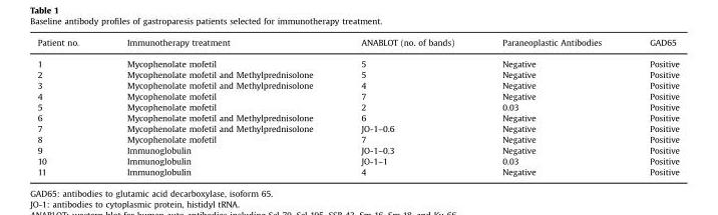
<table><thead><tr><td>Patient no.</td><td>Immunotherapy treatment</td><td>ANABLOT (no. of bands)</td><td>Paraneoplastic Antibodies</td><td>GAD65</td></tr></thead><tbody><tr><td>1</td><td>Mycophenolate mofetil</td><td>5</td><td>Negative</td><td>Positive</td></tr><tr><td>2</td><td>Mycophenolate mofetil and Methylprednisolone</td><td>5</td><td>Negative</td><td>Positive</td></tr><tr><td>3</td><td>Mycophenolate mofetil and Methylprednisolone</td><td>4</td><td>Negative</td><td>Positive</td></tr><tr><td>4</td><td>Mycophenolate mofetil</td><td>7</td><td>Negative</td><td>Positive</td></tr><tr><td>5</td><td>Mycophenolate mofetil</td><td>2</td><td>0.03</td><td>Positive</td></tr><tr><td>6</td><td>Mycophenolate mofetil and Methylprednisolone</td><td>6</td><td>Negative</td><td>Positive</td></tr><tr><td>7</td><td>Mycophenolate mofetil and Methylprednisolone</td><td>JO-1–0.6</td><td>Negative</td><td>Positive</td></tr><tr><td>8</td><td>Mycophenolate mofetil</td><td>7</td><td>Negative</td><td>Positive</td></tr><tr><td>9</td><td>Immunoglobulin</td><td>JO-1–0.3</td><td>Negative</td><td>Positive</td></tr><tr><td>10</td><td>Immunoglobulin</td><td>JO-1–1</td><td>0.03</td><td>Positive</td></tr><tr><td>11</td><td>Immunoglobulin</td><td>4</td><td>Negative</td><td>Positive</td></tr></tbody></table>